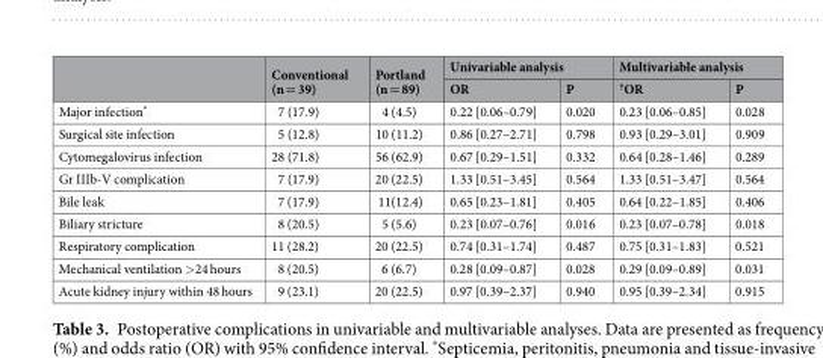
<table><thead><tr><td rowspan="2"></td><td rowspan="2">Conventional (n = 39)</td><td rowspan="2">Portland (n = 89)</td><td colspan="2">Univariable analysis</td><td colspan="2">Multivariable analysis</td></tr><tr><td>OR</td><td>P</td><td><sup>†</sup>OR</td><td>P</td></tr></thead><tbody><tr><td>Major infection*</td><td>7 (17.9)</td><td>4 (4.5)</td><td>0.22 [0.06–0.79]</td><td>0.020</td><td>0.23 [0.06–0.85]</td><td>0.028</td></tr><tr><td>Surgical site infection</td><td>5 (12.8)</td><td>10 (11.2)</td><td>0.86 [0.27–2.71]</td><td>0.798</td><td>0.93 [0.29–3.01]</td><td>0.909</td></tr><tr><td>Cytomegalovirus infection</td><td>28 (71.8)</td><td>56 (62.9)</td><td>0.67 [0.29–1.51]</td><td>0.332</td><td>0.64 [0.28–1.46]</td><td>0.289</td></tr><tr><td>Gr IIIb-V complication</td><td>7 (17.9)</td><td>20 (22.5)</td><td>1.33 [0.51–3.45]</td><td>0.564</td><td>1.33 [0.51–3.47]</td><td>0.564</td></tr><tr><td>Bile leak</td><td>7 (17.9)</td><td>11(12.4)</td><td>0.65 [0.23–1.81]</td><td>0.405</td><td>0.64 [0.22–1.85]</td><td>0.406</td></tr><tr><td>Biliary stricture</td><td>8 (20.5)</td><td>5 (5.6)</td><td>0.23 [0.07–0.76]</td><td>0.016</td><td>0.23 [0.07–0.78]</td><td>0.018</td></tr><tr><td>Respiratory complication</td><td>11 (28.2)</td><td>20 (22.5)</td><td>0.74 [0.31–1.74]</td><td>0.487</td><td>0.75 [0.31–1.83]</td><td>0.521</td></tr><tr><td>Mechanical ventilation &gt;24 hours</td><td>8 (20.5)</td><td>6 (6.7)</td><td>0.28 [0.09–0.87]</td><td>0.028</td><td>0.29 [0.09–0.89]</td><td>0.031</td></tr><tr><td>Acute kidney injury within 48 hours</td><td>9 (23.1)</td><td>20 (22.5)</td><td>0.97 [0.39–2.37]</td><td>0.940</td><td>0.95 [0.39–2.34]</td><td>0.915</td></tr></tbody></table>